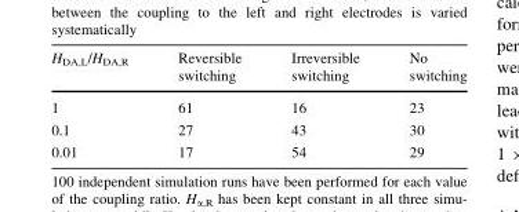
<table><thead><tr><td>H<sub>DA,L</sub>/H<sub>DA,R</sub></td><td>Reversible switching</td><td>Irreversible switching</td><td>No switching</td></tr></thead><tbody><tr><td>1</td><td>61</td><td>16</td><td>23</td></tr><tr><td>0.1</td><td>27</td><td>43</td><td>30</td></tr><tr><td>0.01</td><td>17</td><td>54</td><td>29</td></tr></tbody></table>